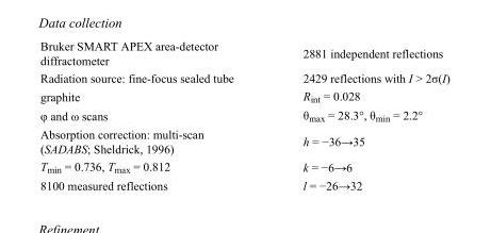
<table><tbody><tr><td>Bruker SMART APEX area-detector diffractometer</td><td>2881 independent reflections</td></tr><tr><td>Radiation source: fine-focus sealed tube</td><td>2429 reflections with I &gt; 2σ(I)</td></tr><tr><td>graphite</td><td>R<sub>int</sub> = 0.028</td></tr><tr><td>φ and ω scans</td><td>θ<sub>max</sub> = 28.3°, θ<sub>min</sub> = 2.2°</td></tr><tr><td>Absorption correction: multi-scan (SADABS; Sheldrick, 1996)</td><td>h = −36→35</td></tr><tr><td>T<sub>min</sub> = 0.736, T<sub>max</sub> = 0.812</td><td>k = −6→6</td></tr><tr><td>8100 measured reflections</td><td>l = −26→32</td></tr></tbody></table>